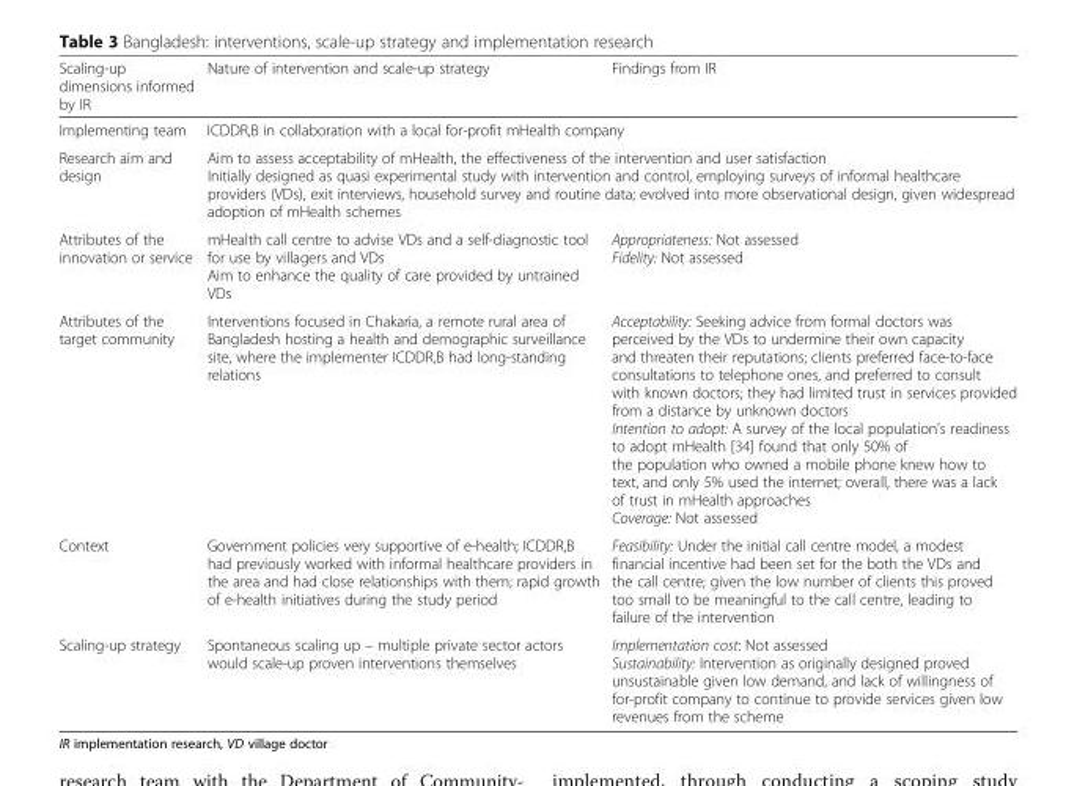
<table><thead><tr><td>Scaling-up dimensions informed by IR</td><td>Nature of intervention and scale-up strategy</td><td>Findings from IR</td></tr></thead><tbody><tr><td>Implementing team</td><td colspan="2">ICDDR,B in collaboration with a local for-profit mHealth company</td></tr><tr><td>Research aim and design</td><td colspan="2">Aim to assess acceptability of mHealth, the effectiveness of the intervention and user satisfaction Initially designed as quasi experimental study with intervention and control, employing surveys of informal healthcare providers (VDs), exit interviews, household survey and routine data; evolved into more observational design, given widespread adoption of mHealth schemes</td></tr><tr><td>Attributes of the innovation or service</td><td>mHealth call centre to advise VDs and a self-diagnostic tool for use by villagers and VDs Aim to enhance the quality of care provided by untrained VDs</td><td>Appropriateness: Not assessed Fidelity: Not assessed</td></tr><tr><td>Attributes of the target community</td><td>Interventions focused in Chakaria, a remote rural area of Bangladesh hosting a health and demographic surveillance site, where the implementer ICDDR,B had long-standing relations</td><td>Acceptability: Seeking advice from formal doctors was perceived by the VDs to undermine their own capacity and threaten their reputations; clients preferred face-to-face consultations to telephone ones, and preferred to consult with known doctors; they had limited trust in services provided from a distance by unknown doctors Intention to adopt: A survey of the local population’s readiness to adopt mHealth [34] found that only 50% of the population who owned a mobile phone knew how to text, and only 5% used the internet; overall, there was a lack of trust in mHealth approaches Coverage: Not assessed</td></tr><tr><td>Context</td><td>Government policies very supportive of e-health; ICDDR,B had previously worked with informal healthcare providers in the area and had close relationships with them; rapid growth of e-health initiatives during the study period</td><td>Feasibility: Under the initial call centre model, a modest financial incentive had been set for the both the VDs and the call centre; given the low number of clients this proved too small to be meaningful to the call centre, leading to failure of the intervention</td></tr><tr><td>Scaling-up strategy</td><td>Spontaneous scaling up – multiple private sector actors would scale-up proven interventions themselves</td><td>Implementation cost: Not assessed Sustainability: Intervention as originally designed proved unsustainable given low demand, and lack of willingness of for-profit company to continue to provide services given low revenues from the scheme</td></tr></tbody></table>